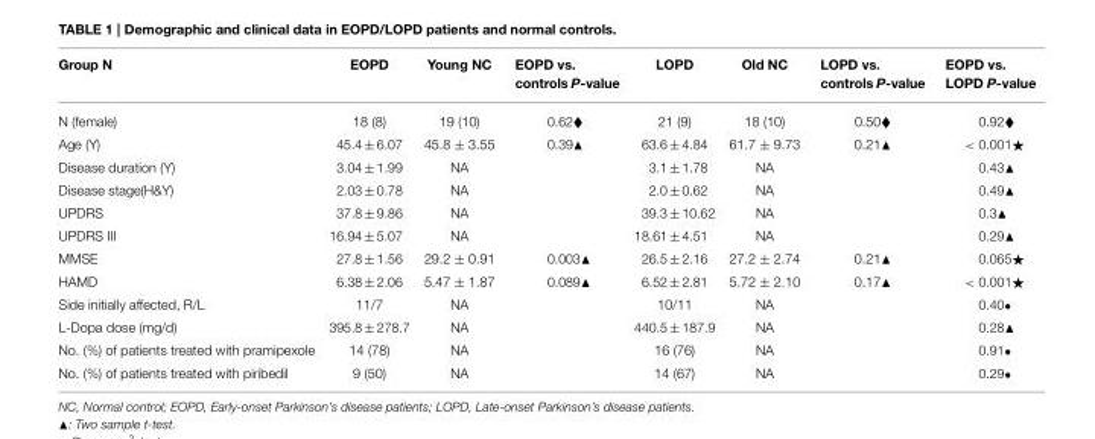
<table><thead><tr><td>Group N</td><td>EOPD</td><td>Young NC</td><td>EOPD vs. controls P-value</td><td>LOPD</td><td>Old NC</td><td>LOPD vs. controls P-value</td><td>EOPD vs. LOPD P-value</td></tr></thead><tbody><tr><td>N (female)</td><td>18 (8)</td><td>19 (10)</td><td>0.62♦</td><td>21 (9)</td><td>18 (10)</td><td>0.50♦</td><td>0.92♦</td></tr><tr><td>Age (Y)</td><td>45.4 ± 6.07</td><td>45.8 ± 3.55</td><td>0.39▲</td><td>63.6 ± 4.84</td><td>61.7 ± 9.73</td><td>0.21▲</td><td>&lt; 0.001⋆</td></tr><tr><td>Disease duration (Y)</td><td>3.04 ± 1.99</td><td>NA</td><td></td><td>3.1 ± 1.78</td><td>NA</td><td></td><td>0.43▲</td></tr><tr><td>Disease stage(H&amp;Y)</td><td>2.03 ± 0.78</td><td>NA</td><td></td><td>2.0 ± 0.62</td><td>NA</td><td></td><td>0.49▲</td></tr><tr><td>UPDRS</td><td>37.8 ± 9.86</td><td>NA</td><td></td><td>39.3 ± 10.62</td><td>NA</td><td></td><td>0.3▲</td></tr><tr><td>UPDRS III</td><td>16.94 ± 5.07</td><td>NA</td><td></td><td>18.61 ± 4.51</td><td>NA</td><td></td><td>0.29▲</td></tr><tr><td>MMSE</td><td>27.8 ± 1.56</td><td>29.2 ± 0.91</td><td>0.003▲</td><td>26.5 ± 2.16</td><td>27.2 ± 2.74</td><td>0.21▲</td><td>0.065⋆</td></tr><tr><td>HAMD</td><td>6.38 ± 2.06</td><td>5.47 ± 1.87</td><td>0.089▲</td><td>6.52 ± 2.81</td><td>5.72 ± 2.10</td><td>0.17▲</td><td>&lt; 0.001⋆</td></tr><tr><td>Side initially affected, R/L</td><td>11/7</td><td>NA</td><td></td><td>10/11</td><td>NA</td><td></td><td>0.40•</td></tr><tr><td>L-Dopa dose (mg/d)</td><td>395.8 ± 278.7</td><td>NA</td><td></td><td>440.5 ± 187.9</td><td>NA</td><td></td><td>0.28▲</td></tr><tr><td>No. (%) of patients treated with pramipexole</td><td>14 (78)</td><td>NA</td><td></td><td>16 (76)</td><td>NA</td><td></td><td>0.91•</td></tr><tr><td>No. (%) of patients treated with piribedil</td><td>9 (50)</td><td>NA</td><td></td><td>14 (67)</td><td>NA</td><td></td><td>0.29•</td></tr></tbody></table>